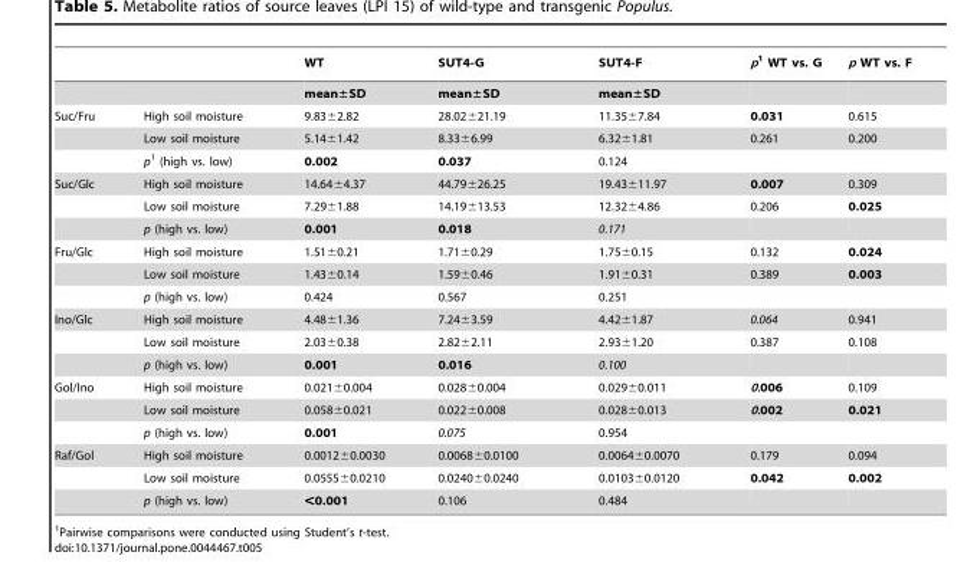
<table><thead><tr><td></td><td></td><td>WT</td><td>SUT4-G</td><td>SUT4-F</td><td>p1 WT vs. G</td><td>p WT vs. F</td></tr></thead><tbody><tr><td></td><td></td><td>mean±SD</td><td>mean±SD</td><td>mean±SD</td><td></td><td></td></tr><tr><td rowspan="3">Suc/Fru</td><td>High soil moisture</td><td>9.83±2.82</td><td>28.02±21.19</td><td>11.35±7.84</td><td>0.031</td><td>0.615</td></tr><tr><td>Low soil moisture</td><td>5.14±1.42</td><td>8.33±6.99</td><td>6.32±1.81</td><td>0.261</td><td>0.200</td></tr><tr><td>p1 (high vs. low)</td><td>0.002</td><td>0.037</td><td>0.124</td><td></td><td></td></tr><tr><td rowspan="3">Suc/Glc</td><td>High soil moisture</td><td>14.64±4.37</td><td>44.79±26.25</td><td>19.43±11.97</td><td>0.007</td><td>0.309</td></tr><tr><td>Low soil moisture</td><td>7.29±1.88</td><td>14.19±13.53</td><td>12.32±4.86</td><td>0.206</td><td>0.025</td></tr><tr><td>p (high vs. low)</td><td>0.001</td><td>0.018</td><td>0.171</td><td></td><td></td></tr><tr><td rowspan="3">Fru/Glc</td><td>High soil moisture</td><td>1.51±0.21</td><td>1.71±0.29</td><td>1.75±0.15</td><td>0.132</td><td>0.024</td></tr><tr><td>Low soil moisture</td><td>1.43±0.14</td><td>1.59±0.46</td><td>1.91±0.31</td><td>0.389</td><td>0.003</td></tr><tr><td>p (high vs. low)</td><td>0.424</td><td>0.567</td><td>0.251</td><td></td><td></td></tr><tr><td rowspan="3">Ino/Glc</td><td>High soil moisture</td><td>4.48±1.36</td><td>7.24±3.59</td><td>4.42±1.87</td><td>0.064</td><td>0.941</td></tr><tr><td>Low soil moisture</td><td>2.03±0.38</td><td>2.82±2.11</td><td>2.93±1.20</td><td>0.387</td><td>0.108</td></tr><tr><td>p (high vs. low)</td><td>0.001</td><td>0.016</td><td>0.100</td><td></td><td></td></tr><tr><td rowspan="3">Gol/Ino</td><td>High soil moisture</td><td>0.021±0.004</td><td>0.028±0.004</td><td>0.029±0.011</td><td>0.006</td><td>0.109</td></tr><tr><td>Low soil moisture</td><td>0.058±0.021</td><td>0.022±0.008</td><td>0.028±0.013</td><td>0.002</td><td>0.021</td></tr><tr><td>p (high vs. low)</td><td>0.001</td><td>0.075</td><td>0.954</td><td></td><td></td></tr><tr><td rowspan="3">Raf/Gol</td><td>High soil moisture</td><td>0.0012±0.0030</td><td>0.0068±0.0100</td><td>0.0064±0.0070</td><td>0.179</td><td>0.094</td></tr><tr><td>Low soil moisture</td><td>0.0555±0.0210</td><td>0.0240±0.0240</td><td>0.0103±0.0120</td><td>0.042</td><td>0.002</td></tr><tr><td>p (high vs. low)</td><td>&lt;0.001</td><td>0.106</td><td>0.484</td><td></td><td></td></tr></tbody></table>